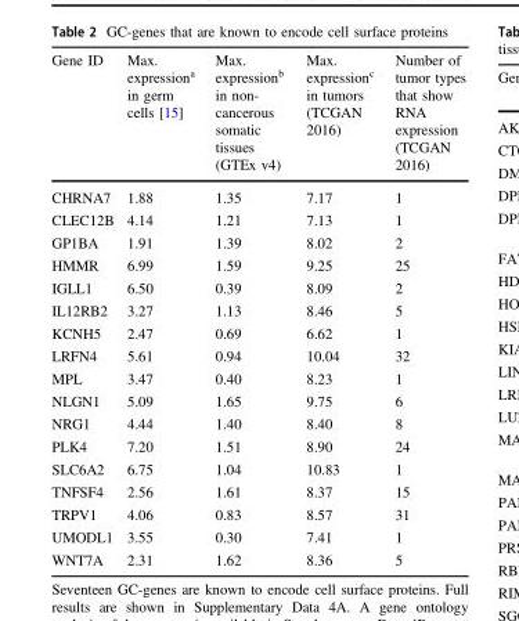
<table><thead><tr><td>Gene ID</td><td>Max. expression<sup>a</sup> in germ cells [15]</td><td>Max. expression<sup>b</sup> in non- cancerous somatic tissues (GTEx v4)</td><td>Max. expression<sup>c</sup> in tumors (TCGAN 2016)</td><td>Number of tumor types that show RNA expression (TCGAN 2016)</td></tr></thead><tbody><tr><td>CHRNA7</td><td>1.88</td><td>1.35</td><td>7.17</td><td>1</td></tr><tr><td>CLEC12B</td><td>4.14</td><td>1.21</td><td>7.13</td><td>1</td></tr><tr><td>GP1BA</td><td>1.91</td><td>1.39</td><td>8.02</td><td>2</td></tr><tr><td>HMMR</td><td>6.99</td><td>1.59</td><td>9.25</td><td>25</td></tr><tr><td>IGLL1</td><td>6.50</td><td>0.39</td><td>8.09</td><td>2</td></tr><tr><td>IL12RB2</td><td>3.27</td><td>1.13</td><td>8.46</td><td>5</td></tr><tr><td>KCNH5</td><td>2.47</td><td>0.69</td><td>6.62</td><td>1</td></tr><tr><td>LRFN4</td><td>5.61</td><td>0.94</td><td>10.04</td><td>32</td></tr><tr><td>MPL</td><td>3.47</td><td>0.40</td><td>8.23</td><td>1</td></tr><tr><td>NLGN1</td><td>5.09</td><td>1.65</td><td>9.75</td><td>6</td></tr><tr><td>NRG1</td><td>4.44</td><td>1.40</td><td>8.40</td><td>8</td></tr><tr><td>PLK4</td><td>7.20</td><td>1.51</td><td>8.90</td><td>24</td></tr><tr><td>SLC6A2</td><td>6.75</td><td>1.04</td><td>10.83</td><td>1</td></tr><tr><td>TNFSF4</td><td>2.56</td><td>1.61</td><td>8.37</td><td>15</td></tr><tr><td>TRPV1</td><td>4.06</td><td>0.83</td><td>8.57</td><td>31</td></tr><tr><td>UMODL1</td><td>3.55</td><td>0.30</td><td>7.41</td><td>1</td></tr><tr><td>WNT7A</td><td>2.31</td><td>1.62</td><td>8.36</td><td>5</td></tr></tbody></table>